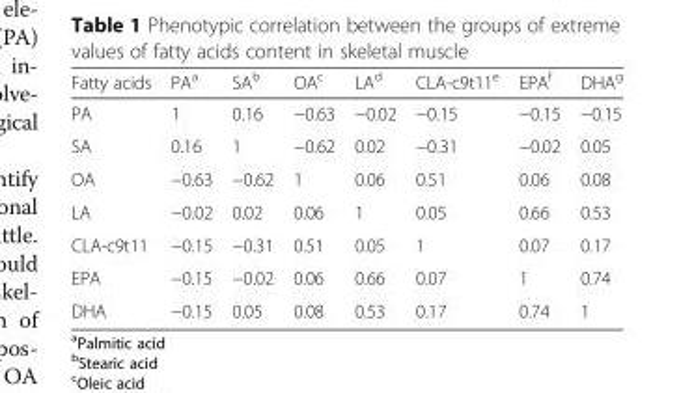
<table><thead><tr><td>Fatty acids</td><td>PA<sup>a</sup></td><td>SA<sup>b</sup></td><td>OA<sup>c</sup></td><td>LA<sup>d</sup></td><td>CLA-c9t11<sup>e</sup></td><td>EPA<sup>f</sup></td><td>DHA<sup>g</sup></td></tr></thead><tbody><tr><td>PA</td><td>1</td><td>0.16</td><td>−0.63</td><td>−0.02</td><td>−0.15</td><td>−0.15</td><td>−0.15</td></tr><tr><td>SA</td><td>0.16</td><td>1</td><td>−0.62</td><td>0.02</td><td>−0.31</td><td>−0.02</td><td>0.05</td></tr><tr><td>OA</td><td>−0.63</td><td>−0.62</td><td>1</td><td>0.06</td><td>0.51</td><td>0.06</td><td>0.08</td></tr><tr><td>LA</td><td>−0.02</td><td>0.02</td><td>0.06</td><td>1</td><td>0.05</td><td>0.66</td><td>0.53</td></tr><tr><td>CLA-c9t11</td><td>−0.15</td><td>−0.31</td><td>0.51</td><td>0.05</td><td>1</td><td>0.07</td><td>0.17</td></tr><tr><td>EPA</td><td>−0.15</td><td>−0.02</td><td>0.06</td><td>0.66</td><td>0.07</td><td>1</td><td>0.74</td></tr><tr><td>DHA</td><td>−0.15</td><td>0.05</td><td>0.08</td><td>0.53</td><td>0.17</td><td>0.74</td><td>1</td></tr></tbody></table>